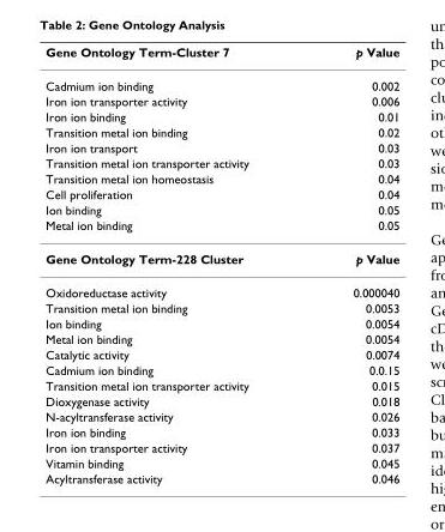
<table><thead><tr><td>Gene Ontology Term-Cluster 7</td><td>p Value</td></tr></thead><tbody><tr><td>Cadmium ion binding</td><td>0.002</td></tr><tr><td>Iron ion transporter activity</td><td>0.006</td></tr><tr><td>Iron ion binding</td><td>0.01</td></tr><tr><td>Transition metal ion binding</td><td>0.02</td></tr><tr><td>Iron ion transport</td><td>0.03</td></tr><tr><td>Transition metal ion transporter activity</td><td>0.03</td></tr><tr><td>Transition metal ion homeostasis</td><td>0.04</td></tr><tr><td>Cell proliferation</td><td>0.04</td></tr><tr><td>Ion binding</td><td>0.05</td></tr><tr><td>Metal ion binding</td><td>0.05</td></tr><tr><td>Gene Ontology Term-228 Cluster</td><td>p Value</td></tr><tr><td>Oxidoreductase activity</td><td>0.000040</td></tr><tr><td>Transition metal ion binding</td><td>0.0053</td></tr><tr><td>Ion binding</td><td>0.0054</td></tr><tr><td>Metal ion binding</td><td>0.0054</td></tr><tr><td>Catalytic activity</td><td>0.0074</td></tr><tr><td>Cadmium ion binding</td><td>0.0.15</td></tr><tr><td>Transition metal ion transporter activity</td><td>0.015</td></tr><tr><td>Dioxygenase activity</td><td>0.018</td></tr><tr><td>N-acyltransferase activity</td><td>0.026</td></tr><tr><td>Iron ion binding</td><td>0.033</td></tr><tr><td>Iron ion transporter activity</td><td>0.037</td></tr><tr><td>Vitamin binding</td><td>0.045</td></tr><tr><td>Acyltransferase activity</td><td>0.046</td></tr></tbody></table>